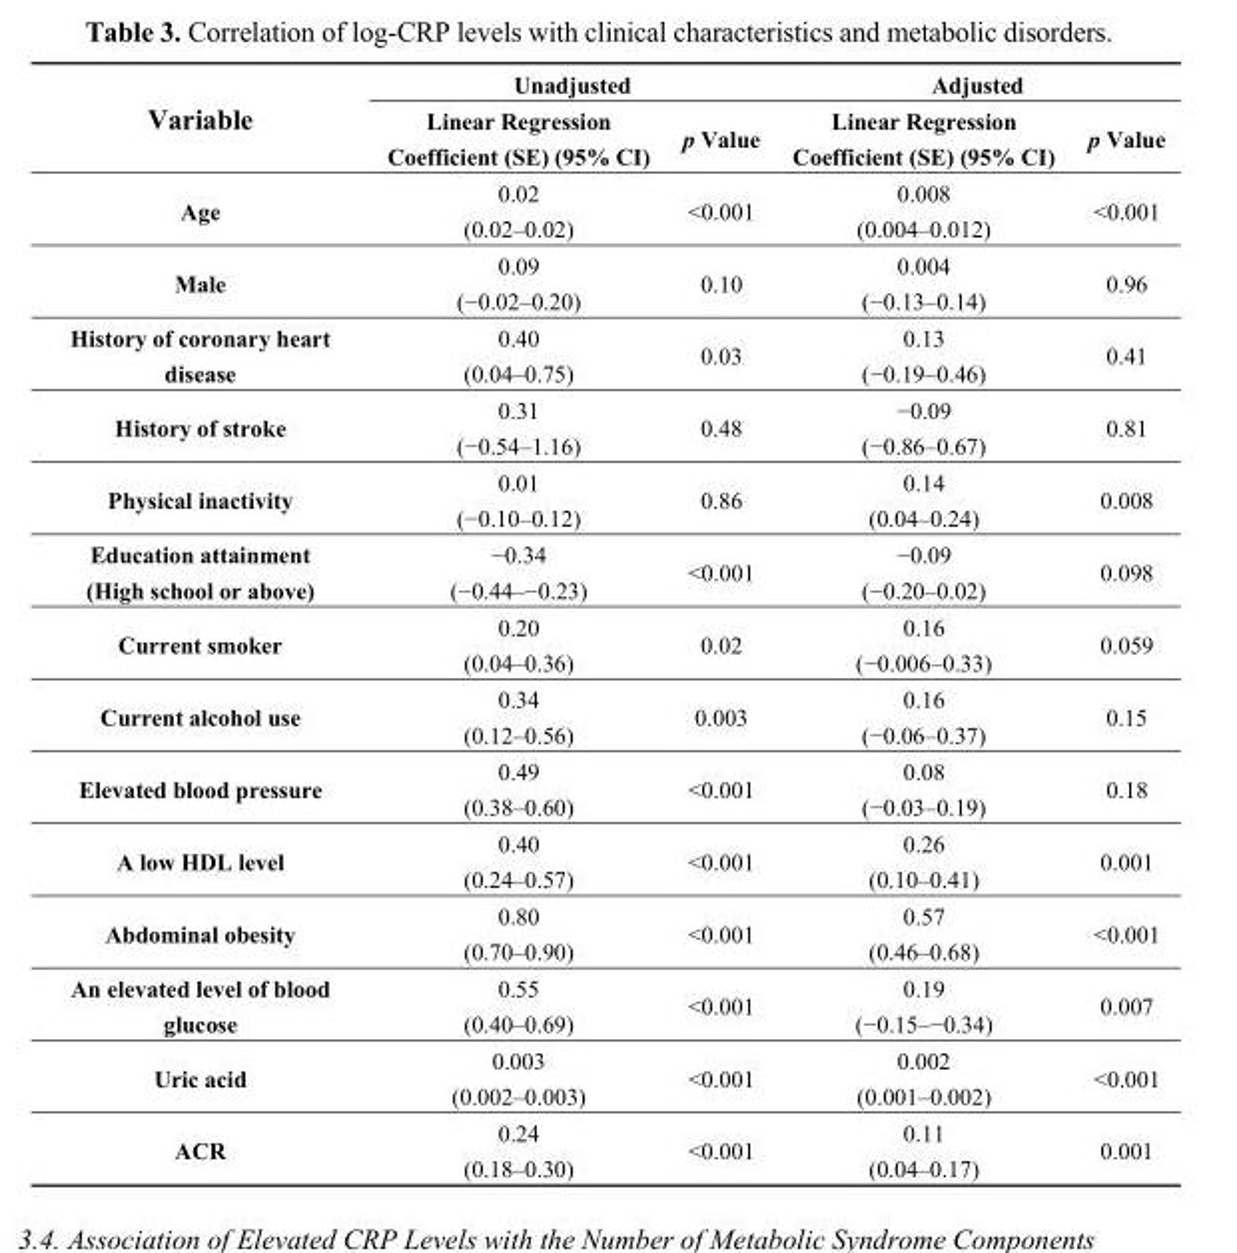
<table><thead><tr><td rowspan="2">Variable</td><td colspan="2">Unadjusted</td><td colspan="2">Adjusted</td></tr><tr><td>Linear Regression Coefficient (SE) (95% CI)</td><td>p Value</td><td>Linear Regression Coefficient (SE) (95% CI)</td><td>p Value</td></tr></thead><tbody><tr><td rowspan="2">Age</td><td>0.02</td><td rowspan="2">&lt;0.001</td><td>0.008</td><td rowspan="2">&lt;0.001</td></tr><tr><td>(0.02–0.02)</td><td>(0.004–0.012)</td></tr><tr><td rowspan="2">Male</td><td>0.09</td><td rowspan="2">0.10</td><td>0.004</td><td rowspan="2">0.96</td></tr><tr><td>(−0.02–0.20)</td><td>(−0.13–0.14)</td></tr><tr><td rowspan="2">History of coronary heart disease</td><td>0.40</td><td rowspan="2">0.03</td><td>0.13</td><td rowspan="2">0.41</td></tr><tr><td>(0.04–0.75)</td><td>(−0.19–0.46)</td></tr><tr><td rowspan="2">History of stroke</td><td>0.31</td><td rowspan="2">0.48</td><td>−0.09</td><td rowspan="2">0.81</td></tr><tr><td>(−0.54–1.16)</td><td>(−0.86–0.67)</td></tr><tr><td rowspan="2">Physical inactivity</td><td>0.01</td><td rowspan="2">0.86</td><td>0.14</td><td rowspan="2">0.008</td></tr><tr><td>(−0.10–0.12)</td><td>(0.04–0.24)</td></tr><tr><td>Education attainment</td><td>−0.34</td><td rowspan="2">&lt;0.001</td><td>−0.09</td><td rowspan="2">0.098</td></tr><tr><td>(High school or above)</td><td>(−0.44–−0.23)</td><td>(−0.20–0.02)</td></tr><tr><td rowspan="2">Current smoker</td><td>0.20</td><td rowspan="2">0.02</td><td>0.16</td><td rowspan="2">0.059</td></tr><tr><td>(0.04–0.36)</td><td>(−0.006–0.33)</td></tr><tr><td rowspan="2">Current alcohol use</td><td>0.34</td><td rowspan="2">0.003</td><td>0.16</td><td rowspan="2">0.15</td></tr><tr><td>(0.12–0.56)</td><td>(−0.06–0.37)</td></tr><tr><td rowspan="2">Elevated blood pressure</td><td>0.49</td><td rowspan="2">&lt;0.001</td><td>0.08</td><td rowspan="2">0.18</td></tr><tr><td>(0.38–0.60)</td><td>(−0.03–0.19)</td></tr><tr><td rowspan="2">A low HDL level</td><td>0.40</td><td rowspan="2">&lt;0.001</td><td>0.26</td><td rowspan="2">0.001</td></tr><tr><td>(0.24–0.57)</td><td>(0.10–0.41)</td></tr><tr><td rowspan="2">Abdominal obesity</td><td>0.80</td><td rowspan="2">&lt;0.001</td><td>0.57</td><td rowspan="2">&lt;0.001</td></tr><tr><td>(0.70–0.90)</td><td>(0.46–0.68)</td></tr><tr><td rowspan="2">An elevated level of blood glucose</td><td>0.55</td><td rowspan="2">&lt;0.001</td><td>0.19</td><td rowspan="2">0.007</td></tr><tr><td>(0.40–0.69)</td><td>(−0.15–−0.34)</td></tr><tr><td rowspan="2">Uric acid</td><td>0.003</td><td rowspan="2">&lt;0.001</td><td>0.002</td><td rowspan="2">&lt;0.001</td></tr><tr><td>(0.002–0.003)</td><td>(0.001–0.002)</td></tr><tr><td rowspan="2">ACR</td><td>0.24</td><td rowspan="2">&lt;0.001</td><td>0.11</td><td rowspan="2">0.001</td></tr><tr><td>(0.18–0.30)</td><td>(0.04–0.17)</td></tr></tbody></table>